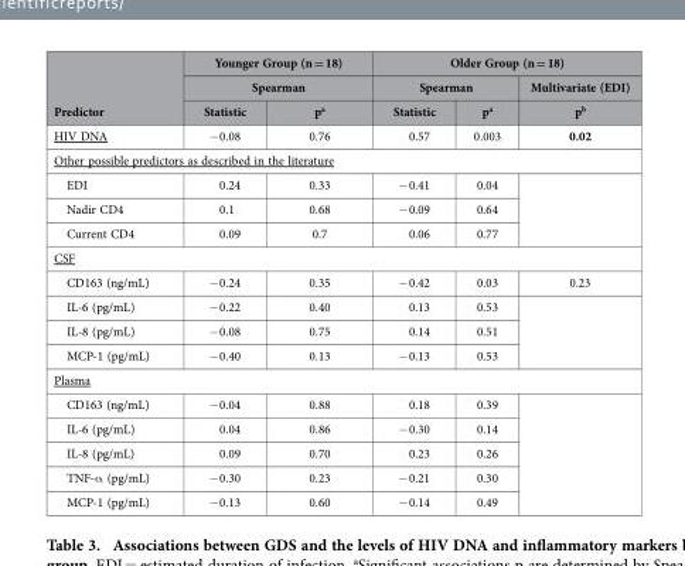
<table><thead><tr><td rowspan="3">Predictor</td><td rowspan="2" colspan="2">Younger Group (n = 18) Spearman</td><td colspan="3">Older Group (n = 18)</td></tr><tr><td colspan="2">Spearman</td><td rowspan="2">Multivariate (EDI) p<sup>b</sup></td></tr><tr><td>Statistic</td><td>p<sup>a</sup></td><td>Statistic</td><td>p<sup>a</sup></td></tr></thead><tbody><tr><td>HIV DNA</td><td>− 0.08</td><td>0.76</td><td>0.57</td><td>0.003</td><td>0.02</td></tr><tr><td colspan="6">Other possible predictors as described in the literature</td></tr><tr><td>EDI</td><td>0.24</td><td>0.33</td><td>− 0.41</td><td>0.04</td><td></td></tr><tr><td>Nadir CD4</td><td>0.1</td><td>0.68</td><td>− 0.09</td><td>0.64</td><td></td></tr><tr><td>Current CD4</td><td>0.09</td><td>0.7</td><td>0.06</td><td>0.77</td><td></td></tr><tr><td colspan="6">CSF</td></tr><tr><td>CD163 (ng/mL)</td><td>− 0.24</td><td>0.35</td><td>− 0.42</td><td>0.03</td><td>0.23</td></tr><tr><td>IL-6 (pg/mL)</td><td>− 0.22</td><td>0.40</td><td>0.13</td><td>0.53</td><td></td></tr><tr><td>IL-8 (pg/mL)</td><td>− 0.08</td><td>0.75</td><td>0.14</td><td>0.51</td><td></td></tr><tr><td>MCP-1 (pg/mL)</td><td>− 0.40</td><td>0.13</td><td>− 0.13</td><td>0.53</td><td></td></tr><tr><td colspan="6">Plasma</td></tr><tr><td>CD163 (ng/mL)</td><td>− 0.04</td><td>0.88</td><td>0.18</td><td>0.39</td><td></td></tr><tr><td>IL-6 (pg/mL)</td><td>0.04</td><td>0.86</td><td>− 0.30</td><td>0.14</td><td></td></tr><tr><td>IL-8 (pg/mL)</td><td>0.09</td><td>0.70</td><td>0.23</td><td>0.26</td><td></td></tr><tr><td>TNF-α (pg/mL)</td><td>− 0.30</td><td>0.23</td><td>− 0.21</td><td>0.30</td><td></td></tr><tr><td>MCP-1 (pg/mL)</td><td>− 0.13</td><td>0.60</td><td>− 0.14</td><td>0.49</td><td></td></tr></tbody></table>